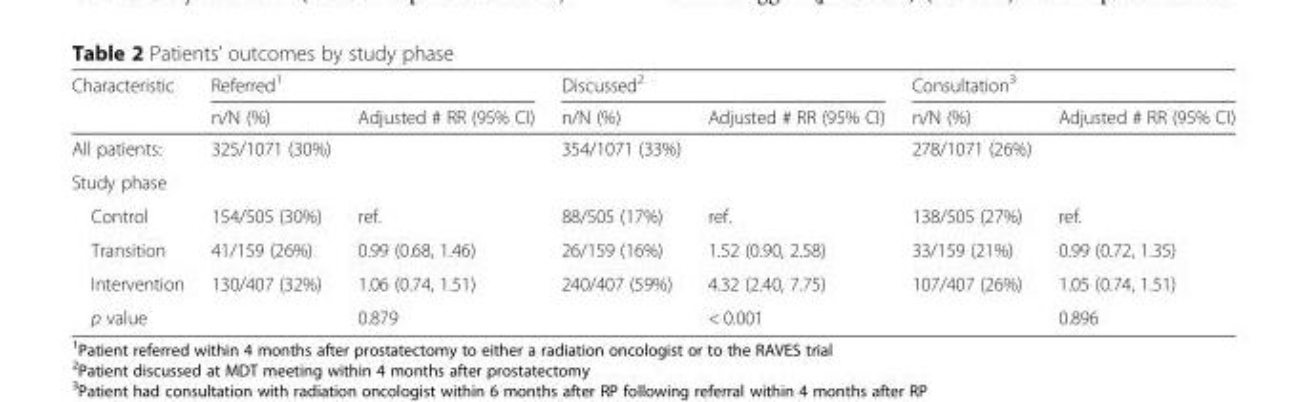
<table><thead><tr><td rowspan="2">Characteristic</td><td colspan="2">Referred<sup>1</sup></td><td colspan="2">Discussed<sup>2</sup></td><td colspan="2">Consultation<sup>3</sup></td></tr><tr><td>n/N (%)</td><td>Adjusted # RR (95% CI)</td><td>n/N (%)</td><td>Adjusted # RR (95% CI)</td><td>n/N (%)</td><td>Adjusted # RR (95% CI)</td></tr></thead><tbody><tr><td>All patients:</td><td>325/1071 (30%)</td><td></td><td>354/1071 (33%)</td><td></td><td>278/1071 (26%)</td><td></td></tr><tr><td colspan="7">Study phase</td></tr><tr><td>Control</td><td>154/505 (30%)</td><td>ref.</td><td>88/505 (17%)</td><td>ref.</td><td>138/505 (27%)</td><td>ref.</td></tr><tr><td>Transition</td><td>41/159 (26%)</td><td>0.99 (0.68, 1.46)</td><td>26/159 (16%)</td><td>1.52 (0.90, 2.58)</td><td>33/159 (21%)</td><td>0.99 (0.72, 1.35)</td></tr><tr><td>Intervention</td><td>130/407 (32%)</td><td>1.06 (0.74, 1.51)</td><td>240/407 (59%)</td><td>4.32 (2.40, 7.75)</td><td>107/407 (26%)</td><td>1.05 (0.74, 1.51)</td></tr><tr><td>p value</td><td></td><td>0.879</td><td></td><td>&lt; 0.001</td><td></td><td>0.896</td></tr></tbody></table>